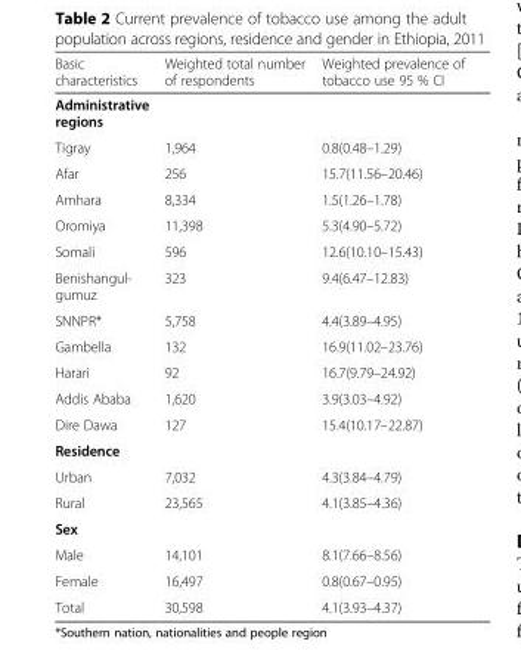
<table><thead><tr><td>Basic characteristics</td><td>Weighted total number of respondents</td><td>Weighted prevalence of tobacco use 95 % CI</td></tr></thead><tbody><tr><td colspan="3">Administrative regions</td></tr><tr><td>Tigray</td><td>1,964</td><td>0.8(0.48–1.29)</td></tr><tr><td>Afar</td><td>256</td><td>15.7(11.56–20.46)</td></tr><tr><td>Amhara</td><td>8,334</td><td>1.5(1.26–1.78)</td></tr><tr><td>Oromiya</td><td>11,398</td><td>5.3(4.90–5.72)</td></tr><tr><td>Somali</td><td>596</td><td>12.6(10.10–15.43)</td></tr><tr><td>Benishangul- gumuz</td><td>323</td><td>9.4(6.47–12.83)</td></tr><tr><td>SNNPR*</td><td>5,758</td><td>4.4(3.89–4.95)</td></tr><tr><td>Gambella</td><td>132</td><td>16.9(11.02–23.76)</td></tr><tr><td>Harari</td><td>92</td><td>16.7(9.79–24.92)</td></tr><tr><td>Addis Ababa</td><td>1,620</td><td>3.9(3.03–4.92)</td></tr><tr><td>Dire Dawa</td><td>127</td><td>15.4(10.17–22.87)</td></tr><tr><td colspan="3">Residence</td></tr><tr><td>Urban</td><td>7,032</td><td>4.3(3.84–4.79)</td></tr><tr><td>Rural</td><td>23,565</td><td>4.1(3.85–4.36)</td></tr><tr><td colspan="3">Sex</td></tr><tr><td>Male</td><td>14,101</td><td>8.1(7.66–8.56)</td></tr><tr><td>Female</td><td>16,497</td><td>0.8(0.67–0.95)</td></tr><tr><td>Total</td><td>30,598</td><td>4.1(3.93–4.37)</td></tr></tbody></table>